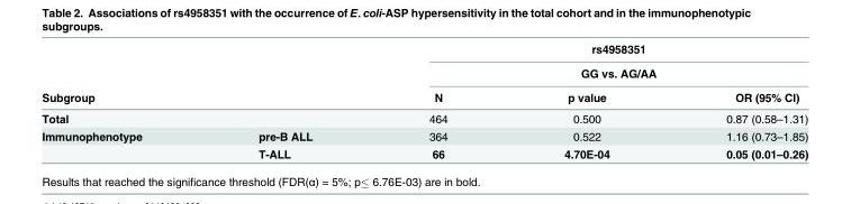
<table><thead><tr><td rowspan="2"></td><td rowspan="2"></td><td rowspan="2" colspan="3">rs4958351 GG vs. AG/AA</td></tr><tr></tr><tr><td colspan="2">Subgroup</td><td>N</td><td>p value</td><td>OR (95% CI)</td></tr></thead><tbody><tr><td>Total</td><td></td><td>464</td><td>0.500</td><td>0.87 (0.58–1.31)</td></tr><tr><td rowspan="2">Immunophenotype</td><td>pre-B ALL</td><td>364</td><td>0.522</td><td>1.16 (0.73–1.85)</td></tr><tr><td>T-ALL</td><td>66</td><td>4.70E-04</td><td>0.05 (0.01–0.26)</td></tr></tbody></table>